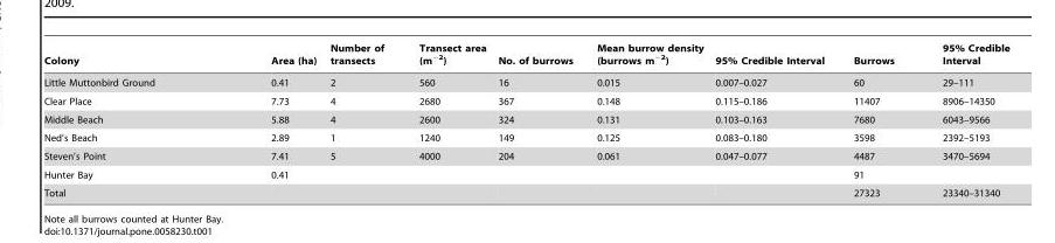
<table><thead><tr><td>Colony</td><td>Area (ha)</td><td>Number of transects</td><td>Transect area (m<sup>−2</sup>)</td><td>No. of burrows</td><td>Mean burrow density (burrows m<sup>−2</sup>)</td><td>95% Credible Interval</td><td>Burrows</td><td>95% Credible Interval</td></tr></thead><tbody><tr><td>Little Muttonbird Ground</td><td>0.41</td><td>2</td><td>560</td><td>16</td><td>0.015</td><td>0.007–0.027</td><td>60</td><td>29–111</td></tr><tr><td>Clear Place</td><td>7.73</td><td>4</td><td>2680</td><td>367</td><td>0.148</td><td>0.115–0.186</td><td>11407</td><td>8906–14350</td></tr><tr><td>Middle Beach</td><td>5.88</td><td>4</td><td>2600</td><td>324</td><td>0.131</td><td>0.103–0.163</td><td>7680</td><td>6043–9566</td></tr><tr><td>Ned’s Beach</td><td>2.89</td><td>1</td><td>1240</td><td>149</td><td>0.125</td><td>0.083–0.180</td><td>3598</td><td>2392–5193</td></tr><tr><td>Steven’s Point</td><td>7.41</td><td>5</td><td>4000</td><td>204</td><td>0.061</td><td>0.047–0.077</td><td>4487</td><td>3470–5694</td></tr><tr><td>Hunter Bay</td><td>0.41</td><td></td><td></td><td></td><td></td><td></td><td>91</td><td></td></tr><tr><td>Total</td><td></td><td></td><td></td><td></td><td></td><td></td><td>27323</td><td>23340–31340</td></tr></tbody></table>